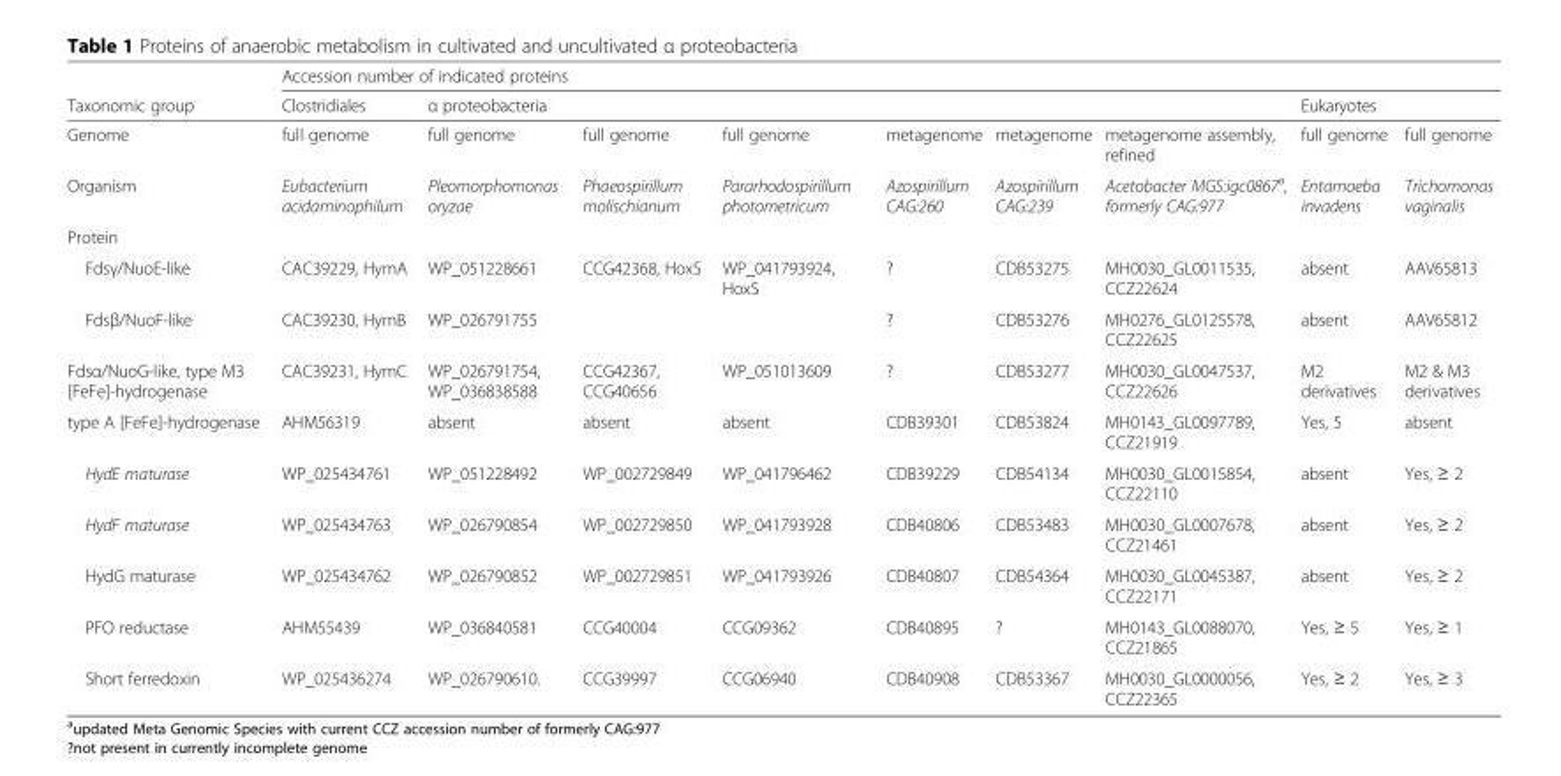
<table><thead><tr><td rowspan="3">Taxonomic group Genome</td><td colspan="9">Accession number of indicated proteins</td></tr><tr><td rowspan="2">Clostridiales full genome</td><td colspan="6">α proteobacteria</td><td colspan="2">Eukaryotes</td></tr><tr><td>full genome</td><td>full genome</td><td>full genome</td><td>metagenome</td><td>metagenome</td><td>metagenome assembly, refined</td><td>full genome</td><td>full genome</td></tr></thead><tbody><tr><td>Organism</td><td>Eubacterium acidaminophilum</td><td>Pleomorphomonas oryzae</td><td>Phaeospirillum molischianum</td><td>Pararhodospirillum photometricum</td><td>Azospirillum CAG:260</td><td>Azospirillum CAG:239</td><td>Acetobacter MGS:igc0867<sup>a</sup>, formerly CAG:977</td><td>Entamoeba invadens</td><td>Trichomonas vaginalis</td></tr><tr><td colspan="10">Protein</td></tr><tr><td>Fdsγ/NuoE-like</td><td>CAC39229, HymA</td><td>WP_051228661</td><td rowspan="2">CCG42368, HoxS</td><td rowspan="2">WP_041793924, HoxS</td><td>?</td><td>CDB53275</td><td>MH0030_GL0011535, CCZ22624</td><td>absent</td><td>AAV65813</td></tr><tr><td>Fdsβ/NuoF-like</td><td>CAC39230, HymB</td><td>WP_026791755</td><td>?</td><td>CDB53276</td><td>MH0276_GL0125578, CCZ22625</td><td>absent</td><td>AAV65812</td></tr><tr><td>Fdsα/NuoG-like, type M3 [FeFe]-hydrogenase</td><td>CAC39231, HymC</td><td>WP_026791754, WP_036838588</td><td>CCG42367, CCG40656</td><td>WP_051013609</td><td>?</td><td>CDB53277</td><td>MH0030_GL0047537, CCZ22626</td><td>M2 derivatives</td><td>M2 &amp; M3 derivatives</td></tr><tr><td>type A [FeFe]-hydrogenase</td><td>AHM56319</td><td>absent</td><td>absent</td><td>absent</td><td>CDB39301</td><td>CDB53824</td><td>MH0143_GL0097789, CCZ21919</td><td>Yes, 5</td><td>absent</td></tr><tr><td>HydE maturase</td><td>WP_025434761</td><td>WP_051228492</td><td>WP_002729849</td><td>WP_041796462</td><td>CDB39229</td><td>CDB54134</td><td>MH0030_GL0015854, CCZ22110</td><td>absent</td><td>Yes, ≥ 2</td></tr><tr><td>HydF maturase</td><td>WP_025434763</td><td>WP_026790854</td><td>WP_002729850</td><td>WP_041793928</td><td>CDB40806</td><td>CDB53483</td><td>MH0030_GL0007678, CCZ21461</td><td>absent</td><td>Yes, ≥ 2</td></tr><tr><td>HydG maturase</td><td>WP_025434762</td><td>WP_026790852</td><td>WP_002729851</td><td>WP_041793926</td><td>CDB40807</td><td>CDB54364</td><td>MH0030_GL0045387, CCZ22171</td><td>absent</td><td>Yes, ≥ 2</td></tr><tr><td>PFO reductase</td><td>AHM55439</td><td>WP_036840581</td><td>CCG40004</td><td>CCG09362</td><td>CDB40895</td><td>?</td><td>MH0143_GL0088070, CCZ21865</td><td>Yes, ≥ 5</td><td>Yes, ≥ 1</td></tr><tr><td>Short ferredoxin</td><td>WP_025436274</td><td>WP_026790610.</td><td>CCG39997</td><td>CCG06940</td><td>CDB40908</td><td>CDB53367</td><td>MH0030_GL0000056, CCZ22365</td><td>Yes, ≥ 2</td><td>Yes, ≥ 3</td></tr></tbody></table>